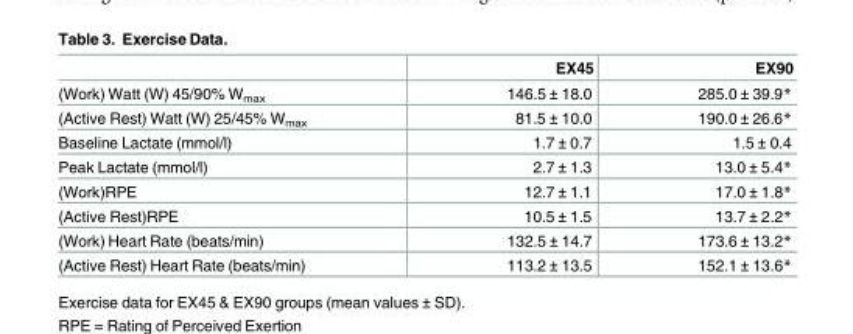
<table><thead><tr><td></td><td>EX45</td><td>EX90</td></tr></thead><tbody><tr><td>(Work) Watt (W) 45/90% W<sub>max</sub></td><td>146.5 ± 18.0</td><td>285.0 ± 39.9*</td></tr><tr><td>(Active Rest) Watt (W) 25/45% W<sub>max</sub></td><td>81.5 ± 10.0</td><td>190.0 ± 26.6*</td></tr><tr><td>Baseline Lactate (mmol/l)</td><td>1.7 ± 0.7</td><td>1.5 ± 0.4</td></tr><tr><td>Peak Lactate (mmol/l)</td><td>2.7 ± 1.3</td><td>13.0 ± 5.4*</td></tr><tr><td>(Work)RPE</td><td>12.7 ± 1.1</td><td>17.0 ± 1.8*</td></tr><tr><td>(Active Rest)RPE</td><td>10.5 ± 1.5</td><td>13.7 ± 2.2*</td></tr><tr><td>(Work) Heart Rate (beats/min)</td><td>132.5 ± 14.7</td><td>173.6 ± 13.2*</td></tr><tr><td>(Active Rest) Heart Rate (beats/min)</td><td>113.2 ± 13.5</td><td>152.1 ± 13.6*</td></tr></tbody></table>